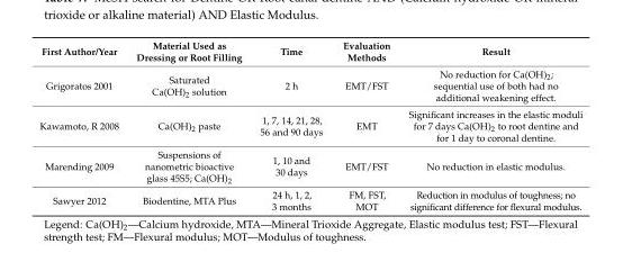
<table><thead><tr><td>First Author/Year</td><td>Material Used as Dressing or Root Filling</td><td>Time</td><td>Evaluation Methods</td><td>Result</td></tr></thead><tbody><tr><td>Grigoratos 2001</td><td>Saturated Ca(OH)<sub>2</sub> solution</td><td>2 h</td><td>EMT/FST</td><td>No reduction for Ca(OH)<sub>2</sub>; sequential use of both had no additional weakening effect.</td></tr><tr><td>Kawamoto, R 2008</td><td>Ca(OH)<sub>2</sub> paste</td><td>1, 7, 14, 21, 28, 56 and 90 days</td><td>EMT</td><td>Significant increases in the elastic moduli for 7 days Ca(OH)<sub>2</sub> to root dentine and for 1 day to coronal dentine.</td></tr><tr><td>Marending 2009</td><td>Suspensions of nanometric bioactive glass 45S5; Ca(OH)<sub>2</sub></td><td>1, 10 and 30 days</td><td>EMT/FST</td><td>No reduction in elastic modulus.</td></tr><tr><td>Sawyer 2012</td><td>Biodentine, MTA Plus</td><td>24 h, 1, 2, 3 months</td><td>FM, FST, MOT</td><td>Reduction in modulus of toughness; no significant difference for flexural modulus.</td></tr></tbody></table>